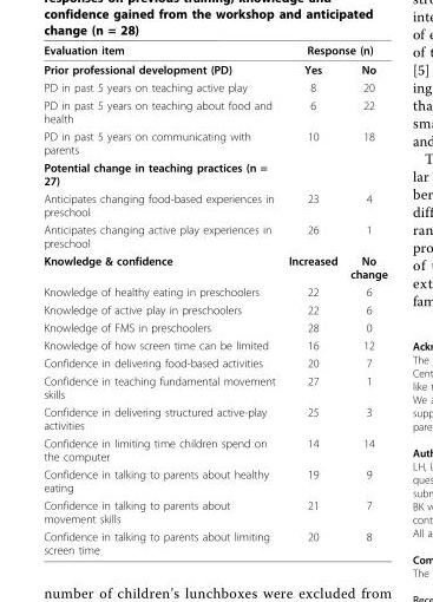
<table><thead><tr><td rowspan="2">Evaluation item Prior professional development (PD)</td><td colspan="2">Response (n)</td></tr><tr><td>Yes</td><td>No</td></tr></thead><tbody><tr><td>PD in past 5 years on teaching active play</td><td>8</td><td>20</td></tr><tr><td>PD in past 5 years on teaching about food and health</td><td>6</td><td>22</td></tr><tr><td>PD in past 5 years on communicating with parents</td><td>10</td><td>18</td></tr><tr><td colspan="3">Potential change in teaching practices (n = 27)</td></tr><tr><td>Anticipates changing food-based experiences in preschool</td><td>23</td><td>4</td></tr><tr><td>Anticipates changing active play experiences in preschool</td><td>26</td><td>1</td></tr><tr><td>Knowledge &amp; confidence</td><td>Increased</td><td>No change</td></tr><tr><td>Knowledge of healthy eating in preschoolers</td><td>22</td><td>6</td></tr><tr><td>Knowledge of active play in preschoolers</td><td>22</td><td>6</td></tr><tr><td>Knowledge of FMS in preschoolers</td><td>28</td><td>0</td></tr><tr><td>Knowledge of how screen time can be limited</td><td>16</td><td>12</td></tr><tr><td>Confidence in delivering food-based activities</td><td>20</td><td>7</td></tr><tr><td>Confidence in teaching fundamental movement skills</td><td>27</td><td>1</td></tr><tr><td>Confidence in delivering structured active-play activities</td><td>25</td><td>3</td></tr><tr><td>Confidence in limiting time children spend on the computer</td><td>14</td><td>14</td></tr><tr><td>Confidence in talking to parents about healthy eating</td><td>19</td><td>9</td></tr><tr><td>Confidence in talking to parents about movement skills</td><td>21</td><td>7</td></tr><tr><td>Confidence in talking to parents about limiting screen time</td><td>20</td><td>8</td></tr></tbody></table>